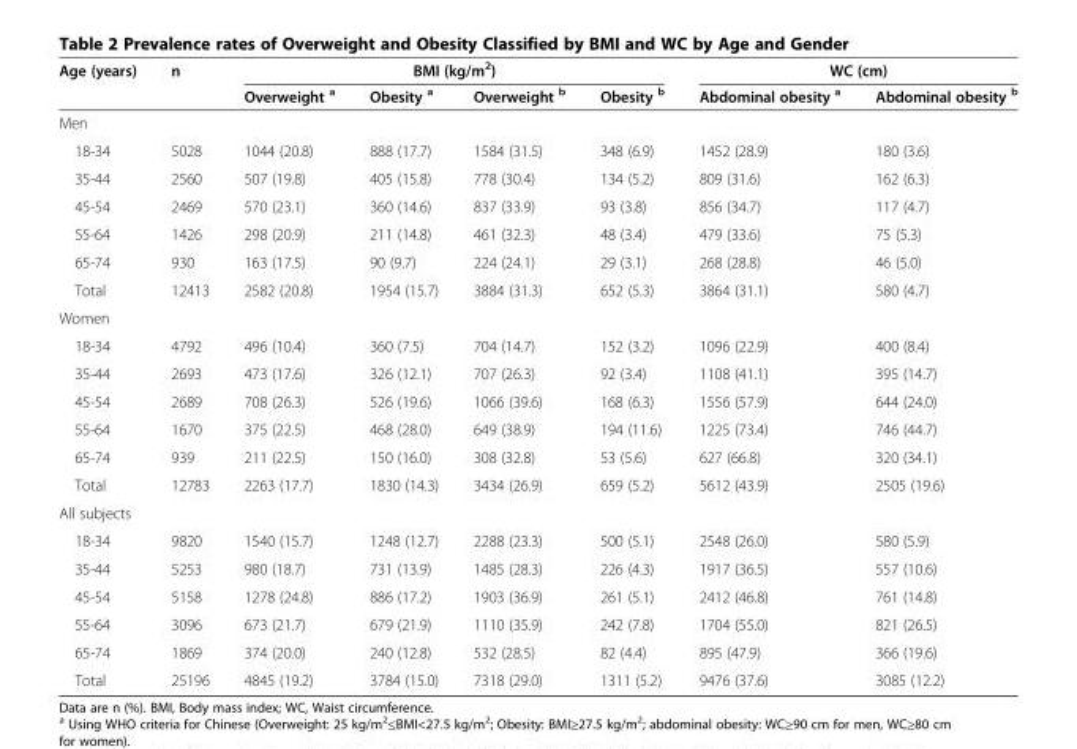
<table><thead><tr><td rowspan="2">Age (years)</td><td rowspan="2">n</td><td colspan="4">BMI (kg/m<sup>2</sup>)</td><td colspan="2">WC (cm)</td></tr><tr><td>Overweight <sup>a</sup></td><td>Obesity <sup>a</sup></td><td>Overweight <sup>b</sup></td><td>Obesity <sup>b</sup></td><td>Abdominal obesity <sup>a</sup></td><td>Abdominal obesity <sup>b</sup></td></tr></thead><tbody><tr><td colspan="8">Men</td></tr><tr><td>18-34</td><td>5028</td><td>1044 (20.8)</td><td>888 (17.7)</td><td>1584 (31.5)</td><td>348 (6.9)</td><td>1452 (28.9)</td><td>180 (3.6)</td></tr><tr><td>35-44</td><td>2560</td><td>507 (19.8)</td><td>405 (15.8)</td><td>778 (30.4)</td><td>134 (5.2)</td><td>809 (31.6)</td><td>162 (6.3)</td></tr><tr><td>45-54</td><td>2469</td><td>570 (23.1)</td><td>360 (14.6)</td><td>837 (33.9)</td><td>93 (3.8)</td><td>856 (34.7)</td><td>117 (4.7)</td></tr><tr><td>55-64</td><td>1426</td><td>298 (20.9)</td><td>211 (14.8)</td><td>461 (32.3)</td><td>48 (3.4)</td><td>479 (33.6)</td><td>75 (5.3)</td></tr><tr><td>65-74</td><td>930</td><td>163 (17.5)</td><td>90 (9.7)</td><td>224 (24.1)</td><td>29 (3.1)</td><td>268 (28.8)</td><td>46 (5.0)</td></tr><tr><td>Total</td><td>12413</td><td>2582 (20.8)</td><td>1954 (15.7)</td><td>3884 (31.3)</td><td>652 (5.3)</td><td>3864 (31.1)</td><td>580 (4.7)</td></tr><tr><td colspan="8">Women</td></tr><tr><td>18-34</td><td>4792</td><td>496 (10.4)</td><td>360 (7.5)</td><td>704 (14.7)</td><td>152 (3.2)</td><td>1096 (22.9)</td><td>400 (8.4)</td></tr><tr><td>35-44</td><td>2693</td><td>473 (17.6)</td><td>326 (12.1)</td><td>707 (26.3)</td><td>92 (3.4)</td><td>1108 (41.1)</td><td>395 (14.7)</td></tr><tr><td>45-54</td><td>2689</td><td>708 (26.3)</td><td>526 (19.6)</td><td>1066 (39.6)</td><td>168 (6.3)</td><td>1556 (57.9)</td><td>644 (24.0)</td></tr><tr><td>55-64</td><td>1670</td><td>375 (22.5)</td><td>468 (28.0)</td><td>649 (38.9)</td><td>194 (11.6)</td><td>1225 (73.4)</td><td>746 (44.7)</td></tr><tr><td>65-74</td><td>939</td><td>211 (22.5)</td><td>150 (16.0)</td><td>308 (32.8)</td><td>53 (5.6)</td><td>627 (66.8)</td><td>320 (34.1)</td></tr><tr><td>Total</td><td>12783</td><td>2263 (17.7)</td><td>1830 (14.3)</td><td>3434 (26.9)</td><td>659 (5.2)</td><td>5612 (43.9)</td><td>2505 (19.6)</td></tr><tr><td colspan="8">All subjects</td></tr><tr><td>18-34</td><td>9820</td><td>1540 (15.7)</td><td>1248 (12.7)</td><td>2288 (23.3)</td><td>500 (5.1)</td><td>2548 (26.0)</td><td>580 (5.9)</td></tr><tr><td>35-44</td><td>5253</td><td>980 (18.7)</td><td>731 (13.9)</td><td>1485 (28.3)</td><td>226 (4.3)</td><td>1917 (36.5)</td><td>557 (10.6)</td></tr><tr><td>45-54</td><td>5158</td><td>1278 (24.8)</td><td>886 (17.2)</td><td>1903 (36.9)</td><td>261 (5.1)</td><td>2412 (46.8)</td><td>761 (14.8)</td></tr><tr><td>55-64</td><td>3096</td><td>673 (21.7)</td><td>679 (21.9)</td><td>1110 (35.9)</td><td>242 (7.8)</td><td>1704 (55.0)</td><td>821 (26.5)</td></tr><tr><td>65-74</td><td>1869</td><td>374 (20.0)</td><td>240 (12.8)</td><td>532 (28.5)</td><td>82 (4.4)</td><td>895 (47.9)</td><td>366 (19.6)</td></tr><tr><td>Total</td><td>25196</td><td>4845 (19.2)</td><td>3784 (15.0)</td><td>7318 (29.0)</td><td>1311 (5.2)</td><td>9476 (37.6)</td><td>3085 (12.2)</td></tr></tbody></table>